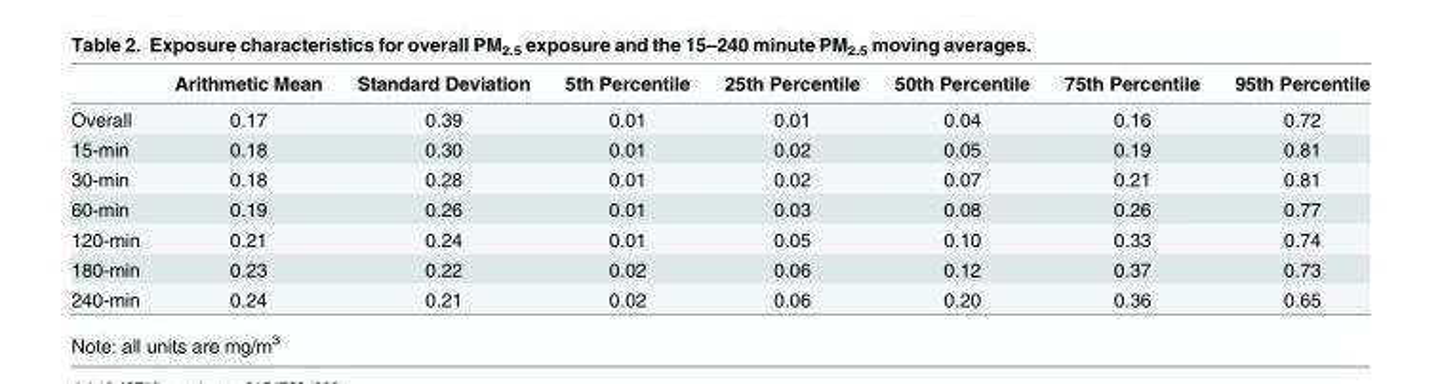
<table><thead><tr><td></td><td>Arithmetic Mean</td><td>Standard Deviation</td><td>5th Percentile</td><td>25th Percentile</td><td>50th Percentile</td><td>75th Percentile</td><td>95th Percentile</td></tr></thead><tbody><tr><td>Overall</td><td>0.17</td><td>0.39</td><td>0.01</td><td>0.01</td><td>0.04</td><td>0.16</td><td>0.72</td></tr><tr><td>15-min</td><td>0.18</td><td>0.30</td><td>0.01</td><td>0.02</td><td>0.05</td><td>0.19</td><td>0.81</td></tr><tr><td>30-min</td><td>0.18</td><td>0.28</td><td>0.01</td><td>0.02</td><td>0.07</td><td>0.21</td><td>0.81</td></tr><tr><td>60-min</td><td>0.19</td><td>0.26</td><td>0.01</td><td>0.03</td><td>0.08</td><td>0.26</td><td>0.77</td></tr><tr><td>120-min</td><td>0.21</td><td>0.24</td><td>0.01</td><td>0.05</td><td>0.10</td><td>0.33</td><td>0.74</td></tr><tr><td>180-min</td><td>0.23</td><td>0.22</td><td>0.02</td><td>0.06</td><td>0.12</td><td>0.37</td><td>0.73</td></tr><tr><td>240-min</td><td>0.24</td><td>0.21</td><td>0.02</td><td>0.06</td><td>0.20</td><td>0.36</td><td>0.65</td></tr></tbody></table>